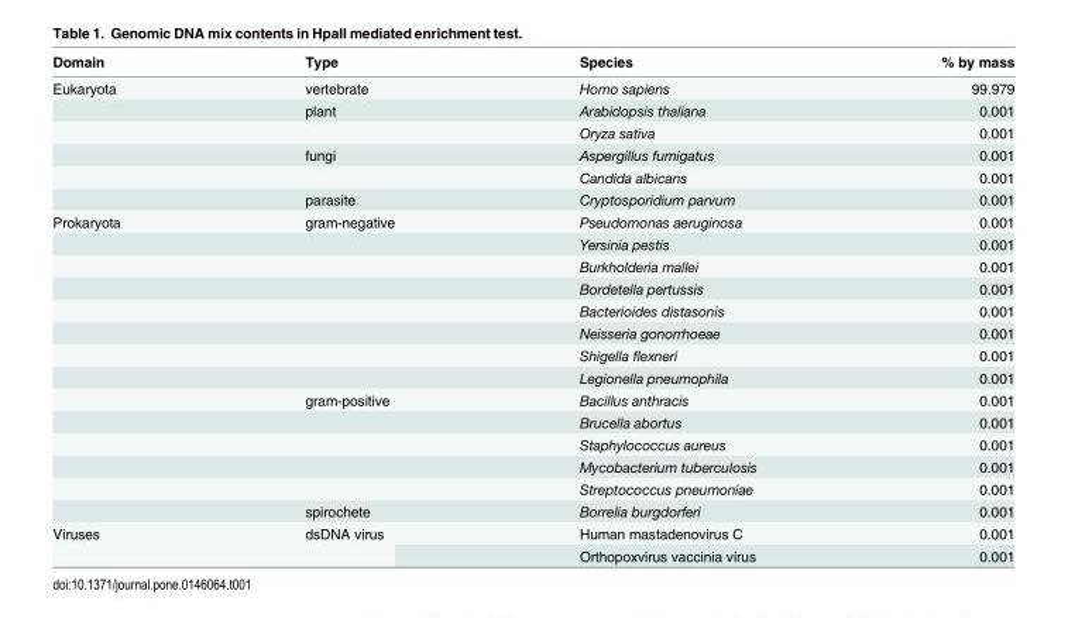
<table><thead><tr><td>Domain</td><td>Type</td><td>Species</td><td>% by mass</td></tr></thead><tbody><tr><td rowspan="6">Eukaryota</td><td>vertebrate</td><td>Homo sapiens</td><td>99.979</td></tr><tr><td>plant</td><td>Arabidopsis thaliana</td><td>0.001</td></tr><tr><td></td><td>Oryza sativa</td><td>0.001</td></tr><tr><td>fungi</td><td>Aspergillus fumigatus</td><td>0.001</td></tr><tr><td></td><td>Candida albicans</td><td>0.001</td></tr><tr><td>parasite</td><td>Cryptosporidium parvum</td><td>0.001</td></tr><tr><td rowspan="14">Prokaryota</td><td>gram-negative</td><td>Pseudomonas aeruginosa</td><td>0.001</td></tr><tr><td></td><td>Yersinia pestis</td><td>0.001</td></tr><tr><td></td><td>Burkholderia mallei</td><td>0.001</td></tr><tr><td></td><td>Bordetella pertussis</td><td>0.001</td></tr><tr><td></td><td>Bacterioides distasonis</td><td>0.001</td></tr><tr><td></td><td>Neisseria gonorrhoeae</td><td>0.001</td></tr><tr><td></td><td>Shigella flexneri</td><td>0.001</td></tr><tr><td></td><td>Legionella pneumophila</td><td>0.001</td></tr><tr><td>gram-positive</td><td>Bacillus anthracis</td><td>0.001</td></tr><tr><td></td><td>Brucella abortus</td><td>0.001</td></tr><tr><td></td><td>Staphylococcus aureus</td><td>0.001</td></tr><tr><td></td><td>Mycobacterium tuberculosis</td><td>0.001</td></tr><tr><td></td><td>Streptococcus pneumoniae</td><td>0.001</td></tr><tr><td>spirochete</td><td>Borrelia burgdorferi</td><td>0.001</td></tr><tr><td rowspan="2">Viruses</td><td rowspan="2">dsDNA virus</td><td>Human mastadenovirus C</td><td>0.001</td></tr><tr><td>Orthopoxvirus vaccinia virus</td><td>0.001</td></tr></tbody></table>